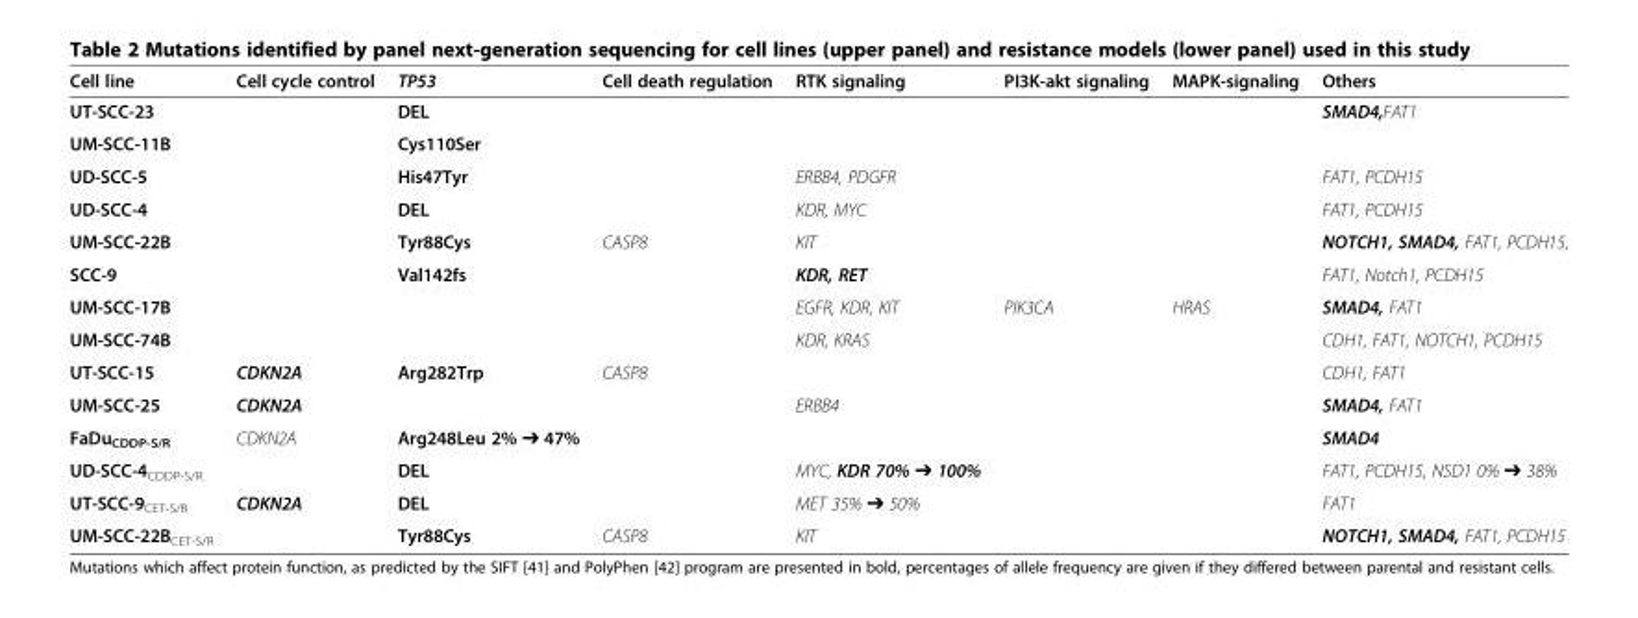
<table><thead><tr><td>Cell line</td><td>Cell cycle control</td><td>TP53</td><td>Cell death regulation</td><td>RTK signaling</td><td>PI3K-akt signaling</td><td>MAPK-signaling</td><td>Others</td></tr></thead><tbody><tr><td>UT-SCC-23</td><td></td><td>DEL</td><td></td><td></td><td></td><td></td><td>SMAD4,FAT1</td></tr><tr><td>UM-SCC-11B</td><td></td><td>Cys110Ser</td><td></td><td></td><td></td><td></td><td></td></tr><tr><td>UD-SCC-5</td><td></td><td>His47Tyr</td><td></td><td>ERBB4, PDGFR</td><td></td><td></td><td>FAT1, PCDH15</td></tr><tr><td>UD-SCC-4</td><td></td><td>DEL</td><td></td><td>KDR, MYC</td><td></td><td></td><td>FAT1, PCDH15</td></tr><tr><td>UM-SCC-22B</td><td></td><td>Tyr88Cys</td><td>CASP8</td><td>KIT</td><td></td><td></td><td>NOTCH1, SMAD4, FAT1, PCDH15,</td></tr><tr><td>SCC-9</td><td></td><td>Val142fs</td><td></td><td>KDR, RET</td><td></td><td></td><td>FAT1, Notch1, PCDH15</td></tr><tr><td>UM-SCC-17B</td><td></td><td></td><td></td><td>EGFR, KDR, KIT</td><td>PIK3CA</td><td>HRAS</td><td>SMAD4, FAT1</td></tr><tr><td>UM-SCC-74B</td><td></td><td></td><td></td><td>KDR, KRAS</td><td></td><td></td><td>CDH1, FAT1, NOTCH1, PCDH15</td></tr><tr><td>UT-SCC-15</td><td>CDKN2A</td><td>Arg282Trp</td><td>CASP8</td><td></td><td></td><td></td><td>CDH1, FAT1</td></tr><tr><td>UM-SCC-25</td><td>CDKN2A</td><td></td><td></td><td>ERBB4</td><td></td><td></td><td>SMAD4, FAT1</td></tr><tr><td>FaDu<sub>CDDP-S/R</sub></td><td>CDKN2A</td><td>Arg248Leu 2% ➔ 47%</td><td></td><td></td><td></td><td></td><td>SMAD4</td></tr><tr><td>UD-SCC-4<sub>CDDP-S/R</sub></td><td></td><td>DEL</td><td></td><td>MYC, KDR 70% ➔ 100%</td><td></td><td></td><td>FAT1, PCDH15, NSD1 0% ➔ 38%</td></tr><tr><td>UT-SCC-9<sub>CET-S/R</sub></td><td>CDKN2A</td><td>DEL</td><td></td><td>MET 35% ➔ 50%</td><td></td><td></td><td>FAT1</td></tr><tr><td>UM-SCC-22B<sub>CET-S/R</sub></td><td></td><td>Tyr88Cys</td><td>CASP8</td><td>KIT</td><td></td><td></td><td>NOTCH1, SMAD4, FAT1, PCDH15</td></tr></tbody></table>